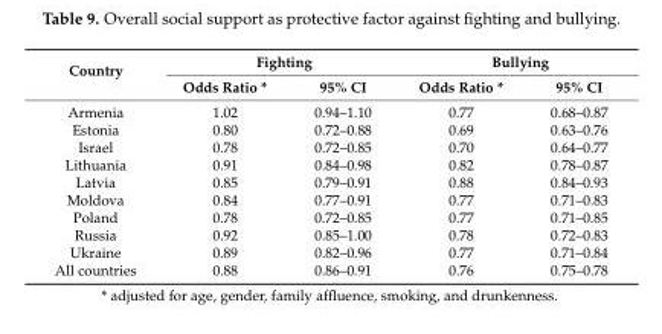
<table><thead><tr><td rowspan="2">Country</td><td colspan="2">Fighting</td><td colspan="2">Bullying</td></tr><tr><td>Odds Ratio *</td><td>95% CI</td><td>Odds Ratio *</td><td>95% CI</td></tr></thead><tbody><tr><td>Armenia</td><td>1.02</td><td>0.94–1.10</td><td>0.77</td><td>0.68–0.87</td></tr><tr><td>Estonia</td><td>0.80</td><td>0.72–0.88</td><td>0.69</td><td>0.63–0.76</td></tr><tr><td>Israel</td><td>0.78</td><td>0.72–0.85</td><td>0.70</td><td>0.64–0.77</td></tr><tr><td>Lithuania</td><td>0.91</td><td>0.84–0.98</td><td>0.82</td><td>0.78–0.87</td></tr><tr><td>Latvia</td><td>0.85</td><td>0.79–0.91</td><td>0.88</td><td>0.84–0.93</td></tr><tr><td>Moldova</td><td>0.84</td><td>0.77–0.91</td><td>0.77</td><td>0.71–0.83</td></tr><tr><td>Poland</td><td>0.78</td><td>0.72–0.85</td><td>0.77</td><td>0.71–0.85</td></tr><tr><td>Russia</td><td>0.92</td><td>0.85–1.00</td><td>0.78</td><td>0.72–0.83</td></tr><tr><td>Ukraine</td><td>0.89</td><td>0.82–0.96</td><td>0.77</td><td>0.71–0.84</td></tr><tr><td>All countries</td><td>0.88</td><td>0.86–0.91</td><td>0.76</td><td>0.75–0.78</td></tr></tbody></table>